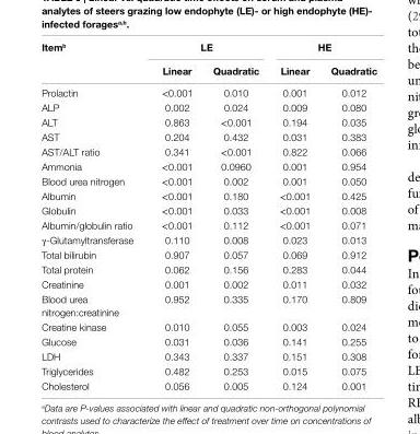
<table><thead><tr><td rowspan="2">item<sup>b</sup></td><td colspan="2">le</td><td colspan="2">he</td></tr><tr><td>linear</td><td>Quadratic</td><td>linear</td><td>Quadratic</td></tr></thead><tbody><tr><td>Prolactin</td><td>&lt;0.001</td><td>0.010</td><td>0.001</td><td>0.012</td></tr><tr><td>ALP</td><td>0.002</td><td>0.024</td><td>0.009</td><td>0.080</td></tr><tr><td>ALT</td><td>0.863</td><td>&lt;0.001</td><td>0.194</td><td>0.035</td></tr><tr><td>AST</td><td>0.204</td><td>0.432</td><td>0.031</td><td>0.383</td></tr><tr><td>AST/ALT ratio</td><td>0.341</td><td>&lt;0.001</td><td>0.822</td><td>0.066</td></tr><tr><td>Ammonia</td><td>&lt;0.001</td><td>0.0960</td><td>0.001</td><td>0.954</td></tr><tr><td>Blood urea nitrogen</td><td>&lt;0.001</td><td>0.002</td><td>0.001</td><td>0.050</td></tr><tr><td>Albumin</td><td>&lt;0.001</td><td>0.180</td><td>&lt;0.001</td><td>0.425</td></tr><tr><td>Globulin</td><td>&lt;0.001</td><td>0.033</td><td>&lt;0.001</td><td>0.008</td></tr><tr><td>Albumin/globulin ratio</td><td>&lt;0.001</td><td>0.112</td><td>&lt;0.001</td><td>0.071</td></tr><tr><td>γ-Glutamyltransferase</td><td>0.110</td><td>0.008</td><td>0.023</td><td>0.013</td></tr><tr><td>Total bilirubin</td><td>0.907</td><td>0.057</td><td>0.069</td><td>0.912</td></tr><tr><td>Total protein</td><td>0.062</td><td>0.156</td><td>0.283</td><td>0.044</td></tr><tr><td>Creatinine</td><td>0.001</td><td>0.002</td><td>0.011</td><td>0.032</td></tr><tr><td>Blood urea nitrogen:creatinine</td><td>0.952</td><td>0.335</td><td>0.170</td><td>0.809</td></tr><tr><td>Creatine kinase</td><td>0.010</td><td>0.055</td><td>0.003</td><td>0.024</td></tr><tr><td>Glucose</td><td>0.031</td><td>0.036</td><td>0.141</td><td>0.255</td></tr><tr><td>LDH</td><td>0.343</td><td>0.337</td><td>0.151</td><td>0.308</td></tr><tr><td>Triglycerides</td><td>0.482</td><td>0.253</td><td>0.015</td><td>0.075</td></tr><tr><td>Cholesterol</td><td>0.056</td><td>0.005</td><td>0.124</td><td>0.001</td></tr></tbody></table>